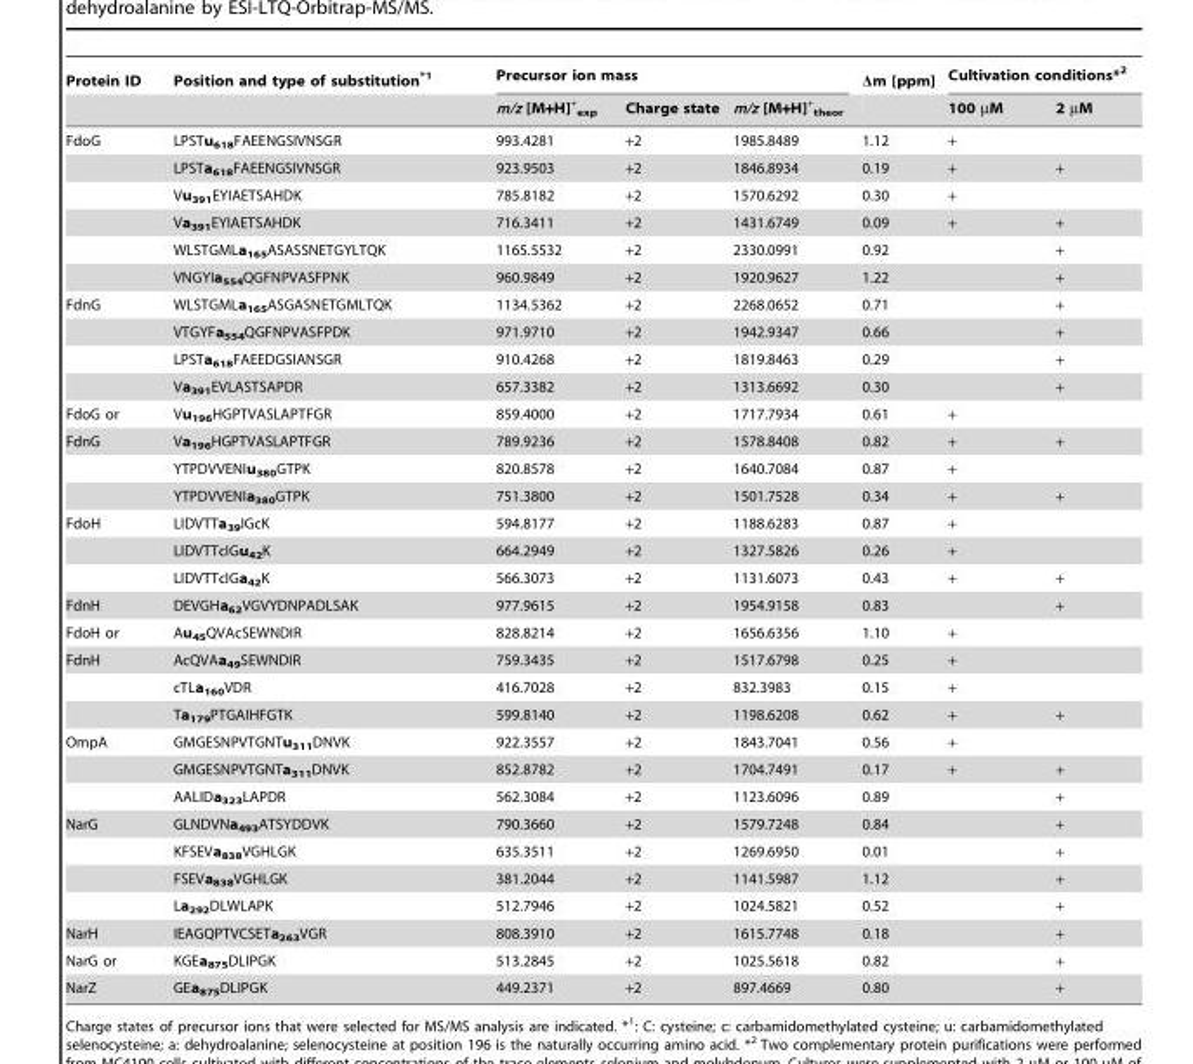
<table><thead><tr><td rowspan="2">Protein ID</td><td rowspan="2">Position and type of substitution<sup>*1</sup></td><td colspan="3">Precursor ion mass</td><td rowspan="2">Δm [ppm]</td><td colspan="2">Cultivation conditions*<sup>2</sup></td></tr><tr><td>m/z [M+H]<sup>+</sup> <sub>exp</sub></td><td>Charge state</td><td>m/z [M+H]<sup>+</sup> <sub>theor</sub></td><td>100 µM</td><td>2 µM</td></tr></thead><tbody><tr><td rowspan="6">FdoG</td><td>LPSTu<sub>618</sub>FAEENGSIVNSGR</td><td>993.4281</td><td>+2</td><td>1985.8489</td><td>1.12</td><td>+</td><td></td></tr><tr><td>LPSTa<sub>618</sub>FAEENGSIVNSGR</td><td>923.9503</td><td>+2</td><td>1846.8934</td><td>0.19</td><td>+</td><td>+</td></tr><tr><td>Vu<sub>391</sub>EYIAETSAHDK</td><td>785.8182</td><td>+2</td><td>1570.6292</td><td>0.30</td><td>+</td><td></td></tr><tr><td>Va<sub>391</sub>EYIAETSAHDK</td><td>716.3411</td><td>+2</td><td>1431.6749</td><td>0.09</td><td>+</td><td>+</td></tr><tr><td>WLSTGMLa<sub>165</sub>ASASSNETGYLTQK</td><td>1165.5532</td><td>+2</td><td>2330.0991</td><td>0.92</td><td></td><td>+</td></tr><tr><td>VNGYIa<sub>554</sub>QGFNPVASFPNK</td><td>960.9849</td><td>+2</td><td>1920.9627</td><td>1.22</td><td></td><td>+</td></tr><tr><td rowspan="4">FdnG</td><td>WLSTGMLa<sub>165</sub>ASGASNETGMLTQK</td><td>1134.5362</td><td>+2</td><td>2268.0652</td><td>0.71</td><td></td><td>+</td></tr><tr><td>VTGYFa<sub>554</sub>QGFNPVASFPDK</td><td>971.9710</td><td>+2</td><td>1942.9347</td><td>0.66</td><td></td><td>+</td></tr><tr><td>LPSTa<sub>618</sub>FAEEDGSIANSGR</td><td>910.4268</td><td>+2</td><td>1819.8463</td><td>0.29</td><td></td><td>+</td></tr><tr><td>Va<sub>391</sub>EVLASTSAPDR</td><td>657.3382</td><td>+2</td><td>1313.6692</td><td>0.30</td><td></td><td>+</td></tr><tr><td>FdoG or</td><td>Vu<sub>196</sub>HGPTVASLAPTFGR</td><td>859.4000</td><td>+2</td><td>1717.7934</td><td>0.61</td><td>+</td><td></td></tr><tr><td rowspan="3">FdnG</td><td>Va<sub>196</sub>HGPTVASLAPTFGR</td><td>789.9236</td><td>+2</td><td>1578.8408</td><td>0.82</td><td>+</td><td>+</td></tr><tr><td>YTPDVVENIu<sub>380</sub>GTPK</td><td>820.8578</td><td>+2</td><td>1640.7084</td><td>0.87</td><td>+</td><td></td></tr><tr><td>YTPDVVENIa<sub>380</sub>GTPK</td><td>751.3800</td><td>+2</td><td>1501.7528</td><td>0.34</td><td>+</td><td>+</td></tr><tr><td rowspan="3">FdoH</td><td>LIDVTTa<sub>39</sub>IGcK</td><td>594.8177</td><td>+2</td><td>1188.6283</td><td>0.87</td><td>+</td><td></td></tr><tr><td>LIDVTTcIGu<sub>42</sub>K</td><td>664.2949</td><td>+2</td><td>1327.5826</td><td>0.26</td><td>+</td><td></td></tr><tr><td>LIDVTTcIGa<sub>42</sub>K</td><td>566.3073</td><td>+2</td><td>1131.6073</td><td>0.43</td><td>+</td><td>+</td></tr><tr><td>FdnH</td><td>DEVGHa<sub>62</sub>VGVYDNPADLSAK</td><td>977.9615</td><td>+2</td><td>1954.9158</td><td>0.83</td><td></td><td>+</td></tr><tr><td>FdoH or</td><td>Au<sub>45</sub>QVAcSEWNDIR</td><td>828.8214</td><td>+2</td><td>1656.6356</td><td>1.10</td><td>+</td><td></td></tr><tr><td rowspan="3">FdnH</td><td>AcQVAa<sub>49</sub>SEWNDIR</td><td>759.3435</td><td>+2</td><td>1517.6798</td><td>0.25</td><td>+</td><td></td></tr><tr><td>cTLa<sub>160</sub>VDR</td><td>416.7028</td><td>+2</td><td>832.3983</td><td>0.15</td><td>+</td><td></td></tr><tr><td>Ta<sub>179</sub>PTGAIHFGTK</td><td>599.8140</td><td>+2</td><td>1198.6208</td><td>0.62</td><td>+</td><td>+</td></tr><tr><td rowspan="3">OmpA</td><td>GMGESNPVTGNTu<sub>311</sub>DNVK</td><td>922.3557</td><td>+2</td><td>1843.7041</td><td>0.56</td><td>+</td><td></td></tr><tr><td>GMGESNPVTGNTa<sub>311</sub>DNVK</td><td>852.8782</td><td>+2</td><td>1704.7491</td><td>0.17</td><td>+</td><td>+</td></tr><tr><td>AALIDa<sub>323</sub>LAPDR</td><td>562.3084</td><td>+2</td><td>1123.6096</td><td>0.89</td><td></td><td>+</td></tr><tr><td rowspan="4">NarG</td><td>GLNDVNa<sub>493</sub>ATSYDDVK</td><td>790.3660</td><td>+2</td><td>1579.7248</td><td>0.84</td><td></td><td>+</td></tr><tr><td>KFSEVa<sub>838</sub>VGHLGK</td><td>635.3511</td><td>+2</td><td>1269.6950</td><td>0.01</td><td></td><td>+</td></tr><tr><td>FSEVa<sub>838</sub>VGHLGK</td><td>381.2044</td><td>+2</td><td>1141.5987</td><td>1.12</td><td></td><td>+</td></tr><tr><td>La<sub>292</sub>DLWLAPK</td><td>512.7946</td><td>+2</td><td>1024.5821</td><td>0.52</td><td></td><td>+</td></tr><tr><td>NarH</td><td>IEAGQPTVCSETa<sub>263</sub>VGR</td><td>808.3910</td><td>+2</td><td>1615.7748</td><td>0.18</td><td></td><td>+</td></tr><tr><td>NarG or</td><td>KGEa<sub>875</sub>DLIPGK</td><td>513.2845</td><td>+2</td><td>1025.5618</td><td>0.82</td><td></td><td>+</td></tr><tr><td>NarZ</td><td>GEa<sub>875</sub>DLIPGK</td><td>449.2371</td><td>+2</td><td>897.4669</td><td>0.80</td><td></td><td>+</td></tr></tbody></table>